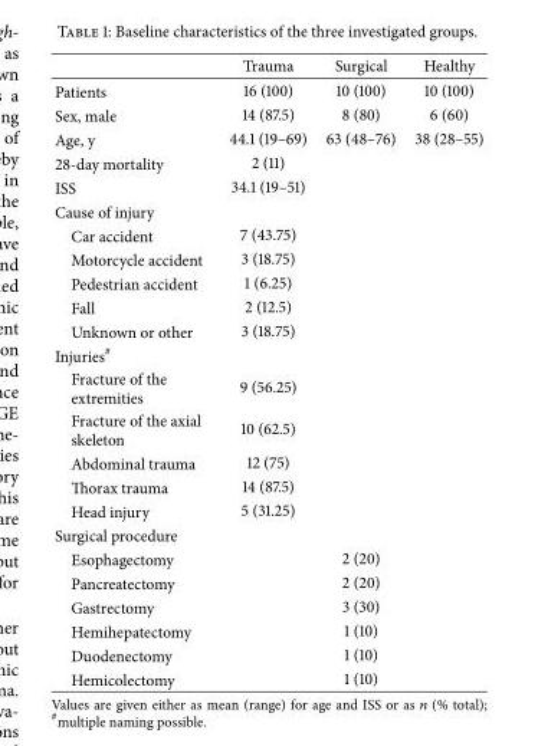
<table><thead><tr><td></td><td>Trauma</td><td>Surgical</td><td>Healthy</td></tr></thead><tbody><tr><td>Patients</td><td>16 (100)</td><td>10 (100)</td><td>10 (100)</td></tr><tr><td>Sex, male</td><td>14 (87.5)</td><td>8 (80)</td><td>6 (60)</td></tr><tr><td>Age, y</td><td>44.1 (19–69)</td><td>63 (48–76)</td><td>38 (28–55)</td></tr><tr><td>28-day mortality</td><td>2 (11)</td><td></td><td></td></tr><tr><td>ISS</td><td>34.1 (19–51)</td><td></td><td></td></tr><tr><td colspan="4">Cause of injury</td></tr><tr><td>Car accident</td><td>7 (43.75)</td><td></td><td></td></tr><tr><td>Motorcycle accident</td><td>3 (18.75)</td><td></td><td></td></tr><tr><td>Pedestrian accident</td><td>1 (6.25)</td><td></td><td></td></tr><tr><td>Fall</td><td>2 (12.5)</td><td></td><td></td></tr><tr><td>Unknown or other</td><td>3 (18.75)</td><td></td><td></td></tr><tr><td colspan="4">Injuries<sup>#</sup></td></tr><tr><td>Fracture of the extremities</td><td>9 (56.25)</td><td></td><td></td></tr><tr><td>Fracture of the axial skeleton</td><td>10 (62.5)</td><td></td><td></td></tr><tr><td>Abdominal trauma</td><td>12 (75)</td><td></td><td></td></tr><tr><td>Thorax trauma</td><td>14 (87.5)</td><td></td><td></td></tr><tr><td>Head injury</td><td>5 (31.25)</td><td></td><td></td></tr><tr><td colspan="4">Surgical procedure</td></tr><tr><td>Esophagectomy</td><td></td><td>2 (20)</td><td></td></tr><tr><td>Pancreatectomy</td><td></td><td>2 (20)</td><td></td></tr><tr><td>Gastrectomy</td><td></td><td>3 (30)</td><td></td></tr><tr><td>Hemihepatectomy</td><td></td><td>1 (10)</td><td></td></tr><tr><td>Duodenectomy</td><td></td><td>1 (10)</td><td></td></tr><tr><td>Hemicolectomy</td><td></td><td>1 (10)</td><td></td></tr></tbody></table>